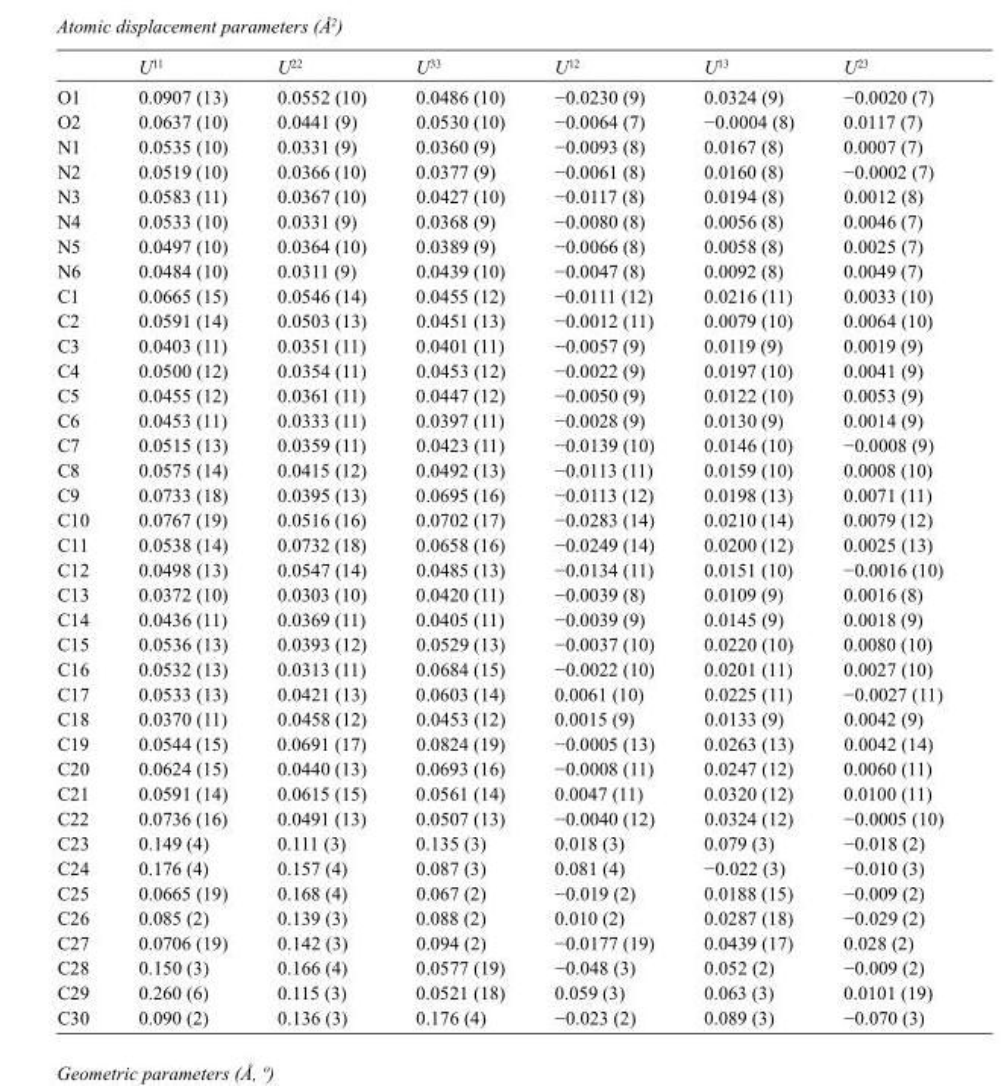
<table><thead><tr><td></td><td>U<sup>11</sup></td><td>U<sup>22</sup></td><td>U<sup>33</sup></td><td>U<sup>12</sup></td><td>U<sup>13</sup></td><td>U<sup>23</sup></td></tr></thead><tbody><tr><td>O1</td><td>0.0907 (13)</td><td>0.0552 (10)</td><td>0.0486 (10)</td><td>−0.0230 (9)</td><td>0.0324 (9)</td><td>−0.0020 (7)</td></tr><tr><td>O2</td><td>0.0637 (10)</td><td>0.0441 (9)</td><td>0.0530 (10)</td><td>−0.0064 (7)</td><td>−0.0004 (8)</td><td>0.0117 (7)</td></tr><tr><td>N1</td><td>0.0535 (10)</td><td>0.0331 (9)</td><td>0.0360 (9)</td><td>−0.0093 (8)</td><td>0.0167 (8)</td><td>0.0007 (7)</td></tr><tr><td>N2</td><td>0.0519 (10)</td><td>0.0366 (10)</td><td>0.0377 (9)</td><td>−0.0061 (8)</td><td>0.0160 (8)</td><td>−0.0002 (7)</td></tr><tr><td>N3</td><td>0.0583 (11)</td><td>0.0367 (10)</td><td>0.0427 (10)</td><td>−0.0117 (8)</td><td>0.0194 (8)</td><td>0.0012 (8)</td></tr><tr><td>N4</td><td>0.0533 (10)</td><td>0.0331 (9)</td><td>0.0368 (9)</td><td>−0.0080 (8)</td><td>0.0056 (8)</td><td>0.0046 (7)</td></tr><tr><td>N5</td><td>0.0497 (10)</td><td>0.0364 (10)</td><td>0.0389 (9)</td><td>−0.0066 (8)</td><td>0.0058 (8)</td><td>0.0025 (7)</td></tr><tr><td>N6</td><td>0.0484 (10)</td><td>0.0311 (9)</td><td>0.0439 (10)</td><td>−0.0047 (8)</td><td>0.0092 (8)</td><td>0.0049 (7)</td></tr><tr><td>C1</td><td>0.0665 (15)</td><td>0.0546 (14)</td><td>0.0455 (12)</td><td>−0.0111 (12)</td><td>0.0216 (11)</td><td>0.0033 (10)</td></tr><tr><td>C2</td><td>0.0591 (14)</td><td>0.0503 (13)</td><td>0.0451 (13)</td><td>−0.0012 (11)</td><td>0.0079 (10)</td><td>0.0064 (10)</td></tr><tr><td>C3</td><td>0.0403 (11)</td><td>0.0351 (11)</td><td>0.0401 (11)</td><td>−0.0057 (9)</td><td>0.0119 (9)</td><td>0.0019 (9)</td></tr><tr><td>C4</td><td>0.0500 (12)</td><td>0.0354 (11)</td><td>0.0453 (12)</td><td>−0.0022 (9)</td><td>0.0197 (10)</td><td>0.0041 (9)</td></tr><tr><td>C5</td><td>0.0455 (12)</td><td>0.0361 (11)</td><td>0.0447 (12)</td><td>−0.0050 (9)</td><td>0.0122 (10)</td><td>0.0053 (9)</td></tr><tr><td>C6</td><td>0.0453 (11)</td><td>0.0333 (11)</td><td>0.0397 (11)</td><td>−0.0028 (9)</td><td>0.0130 (9)</td><td>0.0014 (9)</td></tr><tr><td>C7</td><td>0.0515 (13)</td><td>0.0359 (11)</td><td>0.0423 (11)</td><td>−0.0139 (10)</td><td>0.0146 (10)</td><td>−0.0008 (9)</td></tr><tr><td>C8</td><td>0.0575 (14)</td><td>0.0415 (12)</td><td>0.0492 (13)</td><td>−0.0113 (11)</td><td>0.0159 (10)</td><td>0.0008 (10)</td></tr><tr><td>C9</td><td>0.0733 (18)</td><td>0.0395 (13)</td><td>0.0695 (16)</td><td>−0.0113 (12)</td><td>0.0198 (13)</td><td>0.0071 (11)</td></tr><tr><td>C10</td><td>0.0767 (19)</td><td>0.0516 (16)</td><td>0.0702 (17)</td><td>−0.0283 (14)</td><td>0.0210 (14)</td><td>0.0079 (12)</td></tr><tr><td>C11</td><td>0.0538 (14)</td><td>0.0732 (18)</td><td>0.0658 (16)</td><td>−0.0249 (14)</td><td>0.0200 (12)</td><td>0.0025 (13)</td></tr><tr><td>C12</td><td>0.0498 (13)</td><td>0.0547 (14)</td><td>0.0485 (13)</td><td>−0.0134 (11)</td><td>0.0151 (10)</td><td>−0.0016 (10)</td></tr><tr><td>C13</td><td>0.0372 (10)</td><td>0.0303 (10)</td><td>0.0420 (11)</td><td>−0.0039 (8)</td><td>0.0109 (9)</td><td>0.0016 (8)</td></tr><tr><td>C14</td><td>0.0436 (11)</td><td>0.0369 (11)</td><td>0.0405 (11)</td><td>−0.0039 (9)</td><td>0.0145 (9)</td><td>0.0018 (9)</td></tr><tr><td>C15</td><td>0.0536 (13)</td><td>0.0393 (12)</td><td>0.0529 (13)</td><td>−0.0037 (10)</td><td>0.0220 (10)</td><td>0.0080 (10)</td></tr><tr><td>C16</td><td>0.0532 (13)</td><td>0.0313 (11)</td><td>0.0684 (15)</td><td>−0.0022 (10)</td><td>0.0201 (11)</td><td>0.0027 (10)</td></tr><tr><td>C17</td><td>0.0533 (13)</td><td>0.0421 (13)</td><td>0.0603 (14)</td><td>0.0061 (10)</td><td>0.0225 (11)</td><td>−0.0027 (11)</td></tr><tr><td>C18</td><td>0.0370 (11)</td><td>0.0458 (12)</td><td>0.0453 (12)</td><td>0.0015 (9)</td><td>0.0133 (9)</td><td>0.0042 (9)</td></tr><tr><td>C19</td><td>0.0544 (15)</td><td>0.0691 (17)</td><td>0.0824 (19)</td><td>−0.0005 (13)</td><td>0.0263 (13)</td><td>0.0042 (14)</td></tr><tr><td>C20</td><td>0.0624 (15)</td><td>0.0440 (13)</td><td>0.0693 (16)</td><td>−0.0008 (11)</td><td>0.0247 (12)</td><td>0.0060 (11)</td></tr><tr><td>C21</td><td>0.0591 (14)</td><td>0.0615 (15)</td><td>0.0561 (14)</td><td>0.0047 (11)</td><td>0.0320 (12)</td><td>0.0100 (11)</td></tr><tr><td>C22</td><td>0.0736 (16)</td><td>0.0491 (13)</td><td>0.0507 (13)</td><td>−0.0040 (12)</td><td>0.0324 (12)</td><td>−0.0005 (10)</td></tr><tr><td>C23</td><td>0.149 (4)</td><td>0.111 (3)</td><td>0.135 (3)</td><td>0.018 (3)</td><td>0.079 (3)</td><td>−0.018 (2)</td></tr><tr><td>C24</td><td>0.176 (4)</td><td>0.157 (4)</td><td>0.087 (3)</td><td>0.081 (4)</td><td>−0.022 (3)</td><td>−0.010 (3)</td></tr><tr><td>C25</td><td>0.0665 (19)</td><td>0.168 (4)</td><td>0.067 (2)</td><td>−0.019 (2)</td><td>0.0188 (15)</td><td>−0.009 (2)</td></tr><tr><td>C26</td><td>0.085 (2)</td><td>0.139 (3)</td><td>0.088 (2)</td><td>0.010 (2)</td><td>0.0287 (18)</td><td>−0.029 (2)</td></tr><tr><td>C27</td><td>0.0706 (19)</td><td>0.142 (3)</td><td>0.094 (2)</td><td>−0.0177 (19)</td><td>0.0439 (17)</td><td>0.028 (2)</td></tr><tr><td>C28</td><td>0.150 (3)</td><td>0.166 (4)</td><td>0.0577 (19)</td><td>−0.048 (3)</td><td>0.052 (2)</td><td>−0.009 (2)</td></tr><tr><td>C29</td><td>0.260 (6)</td><td>0.115 (3)</td><td>0.0521 (18)</td><td>0.059 (3)</td><td>0.063 (3)</td><td>0.0101 (19)</td></tr><tr><td>C30</td><td>0.090 (2)</td><td>0.136 (3)</td><td>0.176 (4)</td><td>−0.023 (2)</td><td>0.089 (3)</td><td>−0.070 (3)</td></tr></tbody></table>